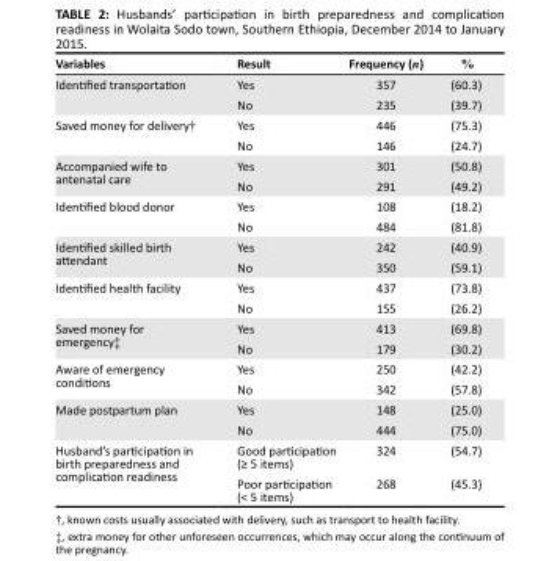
<table><thead><tr><td>Variables</td><td>Result</td><td>Frequency (n)</td><td>%</td></tr></thead><tbody><tr><td rowspan="2">Identified transportation</td><td>Yes</td><td>357</td><td>(60.3)</td></tr><tr><td>No</td><td>235</td><td>(39.7)</td></tr><tr><td rowspan="2">Saved money for delivery†</td><td>Yes</td><td>446</td><td>(75.3)</td></tr><tr><td>No</td><td>146</td><td>(24.7)</td></tr><tr><td rowspan="2">Accompanied wife to antenatal care</td><td>Yes</td><td>301</td><td>(50.8)</td></tr><tr><td>No</td><td>291</td><td>(49.2)</td></tr><tr><td rowspan="2">Identified blood donor</td><td>Yes</td><td>108</td><td>(18.2)</td></tr><tr><td>No</td><td>484</td><td>(81.8)</td></tr><tr><td rowspan="2">Identified skilled birth attendant</td><td>Yes</td><td>242</td><td>(40.9)</td></tr><tr><td>No</td><td>350</td><td>(59.1)</td></tr><tr><td rowspan="2">Identified health facility</td><td>Yes</td><td>437</td><td>(73.8)</td></tr><tr><td>No</td><td>155</td><td>(26.2)</td></tr><tr><td rowspan="2">Saved money for emergency‡</td><td>Yes</td><td>413</td><td>(69.8)</td></tr><tr><td>No</td><td>179</td><td>(30.2)</td></tr><tr><td rowspan="2">Aware of emergency conditions</td><td>Yes</td><td>250</td><td>(42.2)</td></tr><tr><td>No</td><td>342</td><td>(57.8)</td></tr><tr><td rowspan="2">Made postpartum plan</td><td>Yes</td><td>148</td><td>(25.0)</td></tr><tr><td>No</td><td>444</td><td>(75.0)</td></tr><tr><td rowspan="2">Husband’s participation in birth preparedness and complication readiness</td><td>Good participation (≥ 5 items)</td><td>324</td><td>(54.7)</td></tr><tr><td>Poor participation (&lt; 5 items)</td><td>268</td><td>(45.3)</td></tr></tbody></table>